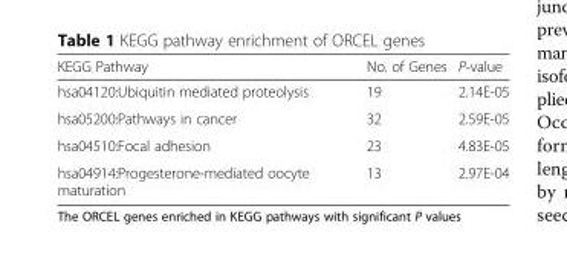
<table><thead><tr><td>KEGG Pathway</td><td>No. of Genes</td><td>P-value</td></tr></thead><tbody><tr><td>hsa04120:Ubiquitin mediated proteolysis</td><td>19</td><td>2.14E-05</td></tr><tr><td>hsa05200:Pathways in cancer</td><td>32</td><td>2.59E-05</td></tr><tr><td>hsa04510:Focal adhesion</td><td>23</td><td>4.83E-05</td></tr><tr><td>hsa04914:Progesterone-mediated oocyte maturation</td><td>13</td><td>2.97E-04</td></tr></tbody></table>